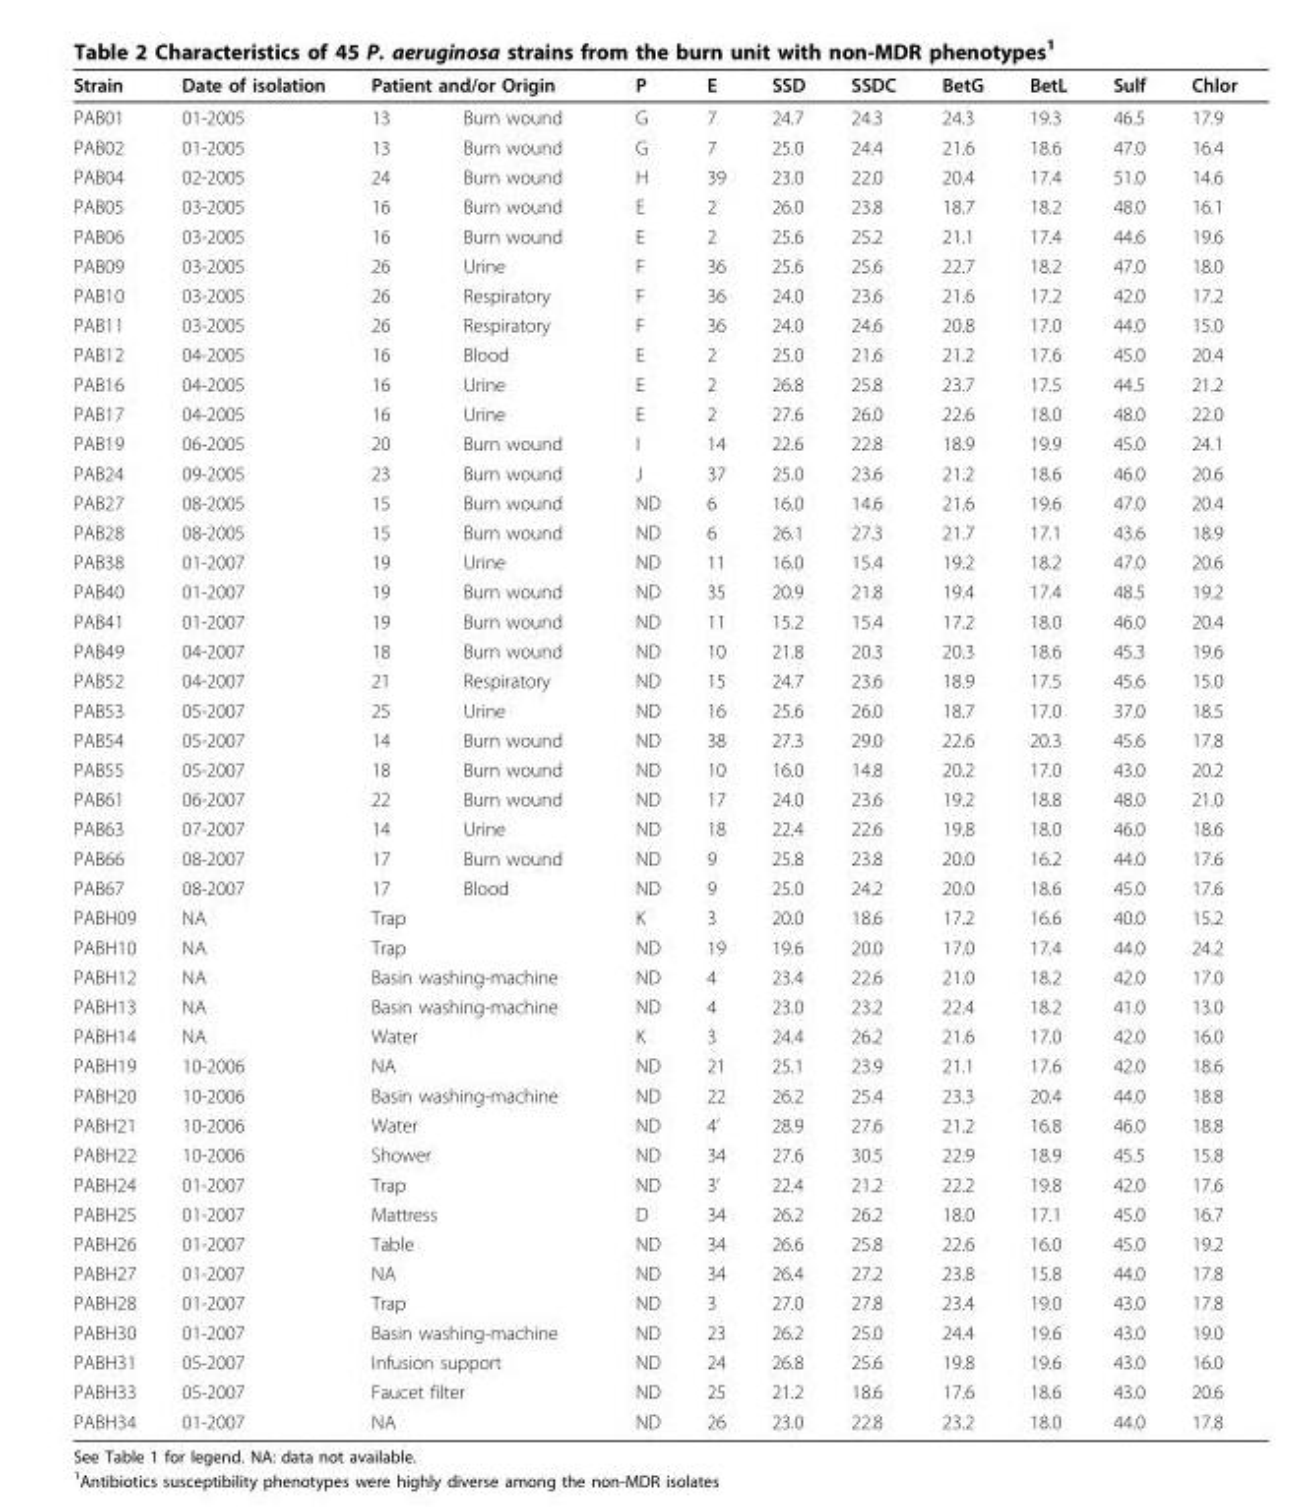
<table><thead><tr><td rowspan="2">Strain PAB01</td><td rowspan="2">Date of isolation 01-2005</td><td colspan="2">Patient and/or Origin</td><td rowspan="2">P G</td><td rowspan="2">E 7</td><td rowspan="2">SSD 24.7</td><td rowspan="2">SSDC 24.3</td><td rowspan="2">BetG 24.3</td><td rowspan="2">BetL 19.3</td><td rowspan="2">Sulf 46.5</td><td rowspan="2">Chlor 17.9</td></tr><tr><td>13</td><td>Burn wound</td></tr></thead><tbody><tr><td>PAB02</td><td>01-2005</td><td>13</td><td>Burn wound</td><td>G</td><td>7</td><td>25.0</td><td>24.4</td><td>21.6</td><td>18.6</td><td>47.0</td><td>16.4</td></tr><tr><td>PAB04</td><td>02-2005</td><td>24</td><td>Burn wound</td><td>H</td><td>39</td><td>23.0</td><td>22.0</td><td>20.4</td><td>17.4</td><td>51.0</td><td>14.6</td></tr><tr><td>PAB05</td><td>03-2005</td><td>16</td><td>Burn wound</td><td>E</td><td>2</td><td>26.0</td><td>23.8</td><td>18.7</td><td>18.2</td><td>48.0</td><td>16.1</td></tr><tr><td>PAB06</td><td>03-2005</td><td>16</td><td>Burn wound</td><td>E</td><td>2</td><td>25.6</td><td>25.2</td><td>21.1</td><td>17.4</td><td>44.6</td><td>19.6</td></tr><tr><td>PAB09</td><td>03-2005</td><td>26</td><td>Urine</td><td>F</td><td>36</td><td>25.6</td><td>25.6</td><td>22.7</td><td>18.2</td><td>47.0</td><td>18.0</td></tr><tr><td>PAB10</td><td>03-2005</td><td>26</td><td>Respiratory</td><td>F</td><td>36</td><td>24.0</td><td>23.6</td><td>21.6</td><td>17.2</td><td>42.0</td><td>17.2</td></tr><tr><td>PAB11</td><td>03-2005</td><td>26</td><td>Respiratory</td><td>F</td><td>36</td><td>24.0</td><td>24.6</td><td>20.8</td><td>17.0</td><td>44.0</td><td>15.0</td></tr><tr><td>PAB12</td><td>04-2005</td><td>16</td><td>Blood</td><td>E</td><td>2</td><td>25.0</td><td>21.6</td><td>21.2</td><td>17.6</td><td>45.0</td><td>20.4</td></tr><tr><td>PAB16</td><td>04-2005</td><td>16</td><td>Urine</td><td>E</td><td>2</td><td>26.8</td><td>25.8</td><td>23.7</td><td>17.5</td><td>44.5</td><td>21.2</td></tr><tr><td>PAB17</td><td>04-2005</td><td>16</td><td>Urine</td><td>E</td><td>2</td><td>27.6</td><td>26.0</td><td>22.6</td><td>18.0</td><td>48.0</td><td>22.0</td></tr><tr><td>PAB19</td><td>06-2005</td><td>20</td><td>Burn wound</td><td>I</td><td>14</td><td>22.6</td><td>22.8</td><td>18.9</td><td>19.9</td><td>45.0</td><td>24.1</td></tr><tr><td>PAB24</td><td>09-2005</td><td>23</td><td>Burn wound</td><td>J</td><td>37</td><td>25.0</td><td>23.6</td><td>21.2</td><td>18.6</td><td>46.0</td><td>20.6</td></tr><tr><td>PAB27</td><td>08-2005</td><td>15</td><td>Burn wound</td><td>ND</td><td>6</td><td>16.0</td><td>14.6</td><td>21.6</td><td>19.6</td><td>47.0</td><td>20.4</td></tr><tr><td>PAB28</td><td>08-2005</td><td>15</td><td>Burn wound</td><td>ND</td><td>6</td><td>26.1</td><td>27.3</td><td>21.7</td><td>17.1</td><td>43.6</td><td>18.9</td></tr><tr><td>PAB38</td><td>01-2007</td><td>19</td><td>Urine</td><td>ND</td><td>11</td><td>16.0</td><td>15.4</td><td>19.2</td><td>18.2</td><td>47.0</td><td>20.6</td></tr><tr><td>PAB40</td><td>01-2007</td><td>19</td><td>Burn wound</td><td>ND</td><td>35</td><td>20.9</td><td>21.8</td><td>19.4</td><td>17.4</td><td>48.5</td><td>19.2</td></tr><tr><td>PAB41</td><td>01-2007</td><td>19</td><td>Burn wound</td><td>ND</td><td>11</td><td>15.2</td><td>15.4</td><td>17.2</td><td>18.0</td><td>46.0</td><td>20.4</td></tr><tr><td>PAB49</td><td>04-2007</td><td>18</td><td>Burn wound</td><td>ND</td><td>10</td><td>21.8</td><td>20.3</td><td>20.3</td><td>18.6</td><td>45.3</td><td>19.6</td></tr><tr><td>PAB52</td><td>04-2007</td><td>21</td><td>Respiratory</td><td>ND</td><td>15</td><td>24.7</td><td>23.6</td><td>18.9</td><td>17.5</td><td>45.6</td><td>15.0</td></tr><tr><td>PAB53</td><td>05-2007</td><td>25</td><td>Urine</td><td>ND</td><td>16</td><td>25.6</td><td>26.0</td><td>18.7</td><td>17.0</td><td>37.0</td><td>18.5</td></tr><tr><td>PAB54</td><td>05-2007</td><td>14</td><td>Burn wound</td><td>ND</td><td>38</td><td>27.3</td><td>29.0</td><td>22.6</td><td>20.3</td><td>45.6</td><td>17.8</td></tr><tr><td>PAB55</td><td>05-2007</td><td>18</td><td>Burn wound</td><td>ND</td><td>10</td><td>16.0</td><td>14.8</td><td>20.2</td><td>17.0</td><td>43.0</td><td>20.2</td></tr><tr><td>PAB61</td><td>06-2007</td><td>22</td><td>Burn wound</td><td>ND</td><td>17</td><td>24.0</td><td>23.6</td><td>19.2</td><td>18.8</td><td>48.0</td><td>21.0</td></tr><tr><td>PAB63</td><td>07-2007</td><td>14</td><td>Urine</td><td>ND</td><td>18</td><td>22.4</td><td>22.6</td><td>19.8</td><td>18.0</td><td>46.0</td><td>18.6</td></tr><tr><td>PAB66</td><td>08-2007</td><td>17</td><td>Burn wound</td><td>ND</td><td>9</td><td>25.8</td><td>23.8</td><td>20.0</td><td>16.2</td><td>44.0</td><td>17.6</td></tr><tr><td>PAB67</td><td>08-2007</td><td>17</td><td>Blood</td><td>ND</td><td>9</td><td>25.0</td><td>24.2</td><td>20.0</td><td>18.6</td><td>45.0</td><td>17.6</td></tr><tr><td>PABH09</td><td>NA</td><td colspan="2">Trap</td><td>K</td><td>3</td><td>20.0</td><td>18.6</td><td>17.2</td><td>16.6</td><td>40.0</td><td>15.2</td></tr><tr><td>PABH10</td><td>NA</td><td colspan="2">Trap</td><td>ND</td><td>19</td><td>19.6</td><td>20.0</td><td>17.0</td><td>17.4</td><td>44.0</td><td>24.2</td></tr><tr><td>PABH12</td><td>NA</td><td colspan="2">Basin washing-machine</td><td>ND</td><td>4</td><td>23.4</td><td>22.6</td><td>21.0</td><td>18.2</td><td>42.0</td><td>17.0</td></tr><tr><td>PABH13</td><td>NA</td><td colspan="2">Basin washing-machine</td><td>ND</td><td>4</td><td>23.0</td><td>23.2</td><td>22.4</td><td>18.2</td><td>41.0</td><td>13.0</td></tr><tr><td>PABH14</td><td>NA</td><td colspan="2">Water</td><td>K</td><td>3</td><td>24.4</td><td>26.2</td><td>21.6</td><td>17.0</td><td>42.0</td><td>16.0</td></tr><tr><td>PABH19</td><td>10-2006</td><td colspan="2">NA</td><td>ND</td><td>21</td><td>25.1</td><td>23.9</td><td>21.1</td><td>17.6</td><td>42.0</td><td>18.6</td></tr><tr><td>PABH20</td><td>10-2006</td><td colspan="2">Basin washing-machine</td><td>ND</td><td>22</td><td>26.2</td><td>25.4</td><td>23.3</td><td>20.4</td><td>44.0</td><td>18.8</td></tr><tr><td>PABH21</td><td>10-2006</td><td colspan="2">Water</td><td>ND</td><td>4’</td><td>28.9</td><td>27.6</td><td>21.2</td><td>16.8</td><td>46.0</td><td>18.8</td></tr><tr><td>PABH22</td><td>10-2006</td><td colspan="2">Shower</td><td>ND</td><td>34</td><td>27.6</td><td>30.5</td><td>22.9</td><td>18.9</td><td>45.5</td><td>15.8</td></tr><tr><td>PABH24</td><td>01-2007</td><td colspan="2">Trap</td><td>ND</td><td>3’</td><td>22.4</td><td>21.2</td><td>22.2</td><td>19.8</td><td>42.0</td><td>17.6</td></tr><tr><td>PABH25</td><td>01-2007</td><td colspan="2">Mattress</td><td>D</td><td>34</td><td>26.2</td><td>26.2</td><td>18.0</td><td>17.1</td><td>45.0</td><td>16.7</td></tr><tr><td>PABH26</td><td>01-2007</td><td colspan="2">Table</td><td>ND</td><td>34</td><td>26.6</td><td>25.8</td><td>22.6</td><td>16.0</td><td>45.0</td><td>19.2</td></tr><tr><td>PABH27</td><td>01-2007</td><td colspan="2">NA</td><td>ND</td><td>34</td><td>26.4</td><td>27.2</td><td>23.8</td><td>15.8</td><td>44.0</td><td>17.8</td></tr><tr><td>PABH28</td><td>01-2007</td><td colspan="2">Trap</td><td>ND</td><td>3</td><td>27.0</td><td>27.8</td><td>23.4</td><td>19.0</td><td>43.0</td><td>17.8</td></tr><tr><td>PABH30</td><td>01-2007</td><td colspan="2">Basin washing-machine</td><td>ND</td><td>23</td><td>26.2</td><td>25.0</td><td>24.4</td><td>19.6</td><td>43.0</td><td>19.0</td></tr><tr><td>PABH31</td><td>05-2007</td><td colspan="2">Infusion support</td><td>ND</td><td>24</td><td>26.8</td><td>25.6</td><td>19.8</td><td>19.6</td><td>43.0</td><td>16.0</td></tr><tr><td>PABH33</td><td>05-2007</td><td colspan="2">Faucet filter</td><td>ND</td><td>25</td><td>21.2</td><td>18.6</td><td>17.6</td><td>18.6</td><td>43.0</td><td>20.6</td></tr><tr><td>PABH34</td><td>01-2007</td><td colspan="2">NA</td><td>ND</td><td>26</td><td>23.0</td><td>22.8</td><td>23.2</td><td>18.0</td><td>44.0</td><td>17.8</td></tr></tbody></table>